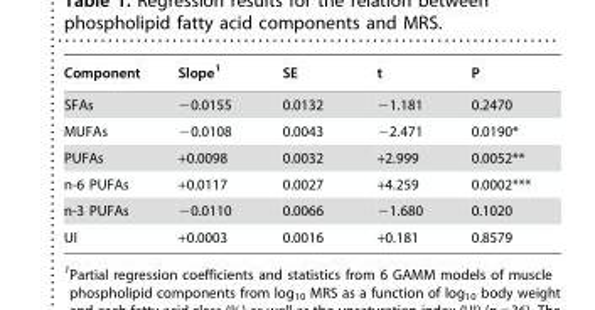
<table><thead><tr><td>Component</td><td>Slope<sup>1</sup></td><td>SE</td><td>t</td><td>P</td></tr></thead><tbody><tr><td>SFAs</td><td>−0.0155</td><td>0.0132</td><td>−1.181</td><td>0.2470</td></tr><tr><td>MUFAs</td><td>−0.0108</td><td>0.0043</td><td>−2.471</td><td>0.0190*</td></tr><tr><td>PUFAs</td><td>+0.0098</td><td>0.0032</td><td>+2.999</td><td>0.0052**</td></tr><tr><td>n-6 PUFAs</td><td>+0.0117</td><td>0.0027</td><td>+4.259</td><td>0.0002***</td></tr><tr><td>n-3 PUFAs</td><td>−0.0110</td><td>0.0066</td><td>−1.680</td><td>0.1020</td></tr><tr><td>UI</td><td>+0.0003</td><td>0.0016</td><td>+0.181</td><td>0.8579</td></tr></tbody></table>